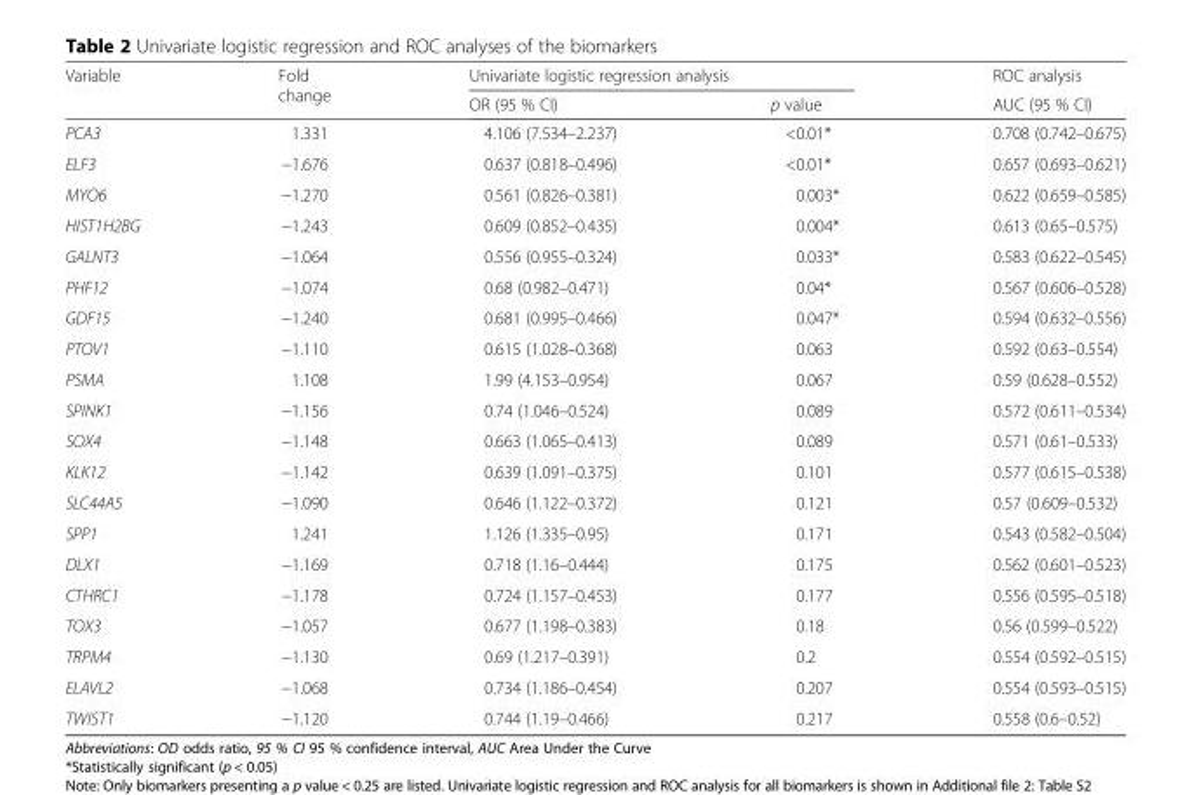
<table><thead><tr><td rowspan="2">Variable</td><td rowspan="2">Fold change</td><td colspan="2">Univariate logistic regression analysis</td><td rowspan="2">ROC analysis AUC (95 % CI)</td></tr><tr><td>OR (95 % CI)</td><td>p value</td></tr></thead><tbody><tr><td>PCA3</td><td>1.331</td><td>4.106 (7.534–2.237)</td><td>&lt;0.01*</td><td>0.708 (0.742–0.675)</td></tr><tr><td>ELF3</td><td>−1.676</td><td>0.637 (0.818–0.496)</td><td>&lt;0.01*</td><td>0.657 (0.693–0.621)</td></tr><tr><td>MYO6</td><td>−1.270</td><td>0.561 (0.826–0.381)</td><td>0.003*</td><td>0.622 (0.659–0.585)</td></tr><tr><td>HIST1H2BG</td><td>−1.243</td><td>0.609 (0.852–0.435)</td><td>0.004*</td><td>0.613 (0.65–0.575)</td></tr><tr><td>GALNT3</td><td>−1.064</td><td>0.556 (0.955–0.324)</td><td>0.033*</td><td>0.583 (0.622–0.545)</td></tr><tr><td>PHF12</td><td>−1.074</td><td>0.68 (0.982–0.471)</td><td>0.04*</td><td>0.567 (0.606–0.528)</td></tr><tr><td>GDF15</td><td>−1.240</td><td>0.681 (0.995–0.466)</td><td>0.047*</td><td>0.594 (0.632–0.556)</td></tr><tr><td>PTOV1</td><td>−1.110</td><td>0.615 (1.028–0.368)</td><td>0.063</td><td>0.592 (0.63–0.554)</td></tr><tr><td>PSMA</td><td>1.108</td><td>1.99 (4.153–0.954)</td><td>0.067</td><td>0.59 (0.628–0.552)</td></tr><tr><td>SPINK1</td><td>−1.156</td><td>0.74 (1.046–0.524)</td><td>0.089</td><td>0.572 (0.611–0.534)</td></tr><tr><td>SOX4</td><td>−1.148</td><td>0.663 (1.065–0.413)</td><td>0.089</td><td>0.571 (0.61–0.533)</td></tr><tr><td>KLK12</td><td>−1.142</td><td>0.639 (1.091–0.375)</td><td>0.101</td><td>0.577 (0.615–0.538)</td></tr><tr><td>SLC44A5</td><td>−1.090</td><td>0.646 (1.122–0.372)</td><td>0.121</td><td>0.57 (0.609–0.532)</td></tr><tr><td>SPP1</td><td>1.241</td><td>1.126 (1.335–0.95)</td><td>0.171</td><td>0.543 (0.582–0.504)</td></tr><tr><td>DLX1</td><td>−1.169</td><td>0.718 (1.16–0.444)</td><td>0.175</td><td>0.562 (0.601–0.523)</td></tr><tr><td>CTHRC1</td><td>−1.178</td><td>0.724 (1.157–0.453)</td><td>0.177</td><td>0.556 (0.595–0.518)</td></tr><tr><td>TOX3</td><td>−1.057</td><td>0.677 (1.198–0.383)</td><td>0.18</td><td>0.56 (0.599–0.522)</td></tr><tr><td>TRPM4</td><td>−1.130</td><td>0.69 (1.217–0.391)</td><td>0.2</td><td>0.554 (0.592–0.515)</td></tr><tr><td>ELAVL2</td><td>−1.068</td><td>0.734 (1.186–0.454)</td><td>0.207</td><td>0.554 (0.593–0.515)</td></tr><tr><td>TWIST1</td><td>−1.120</td><td>0.744 (1.19–0.466)</td><td>0.217</td><td>0.558 (0.6–0.52)</td></tr></tbody></table>